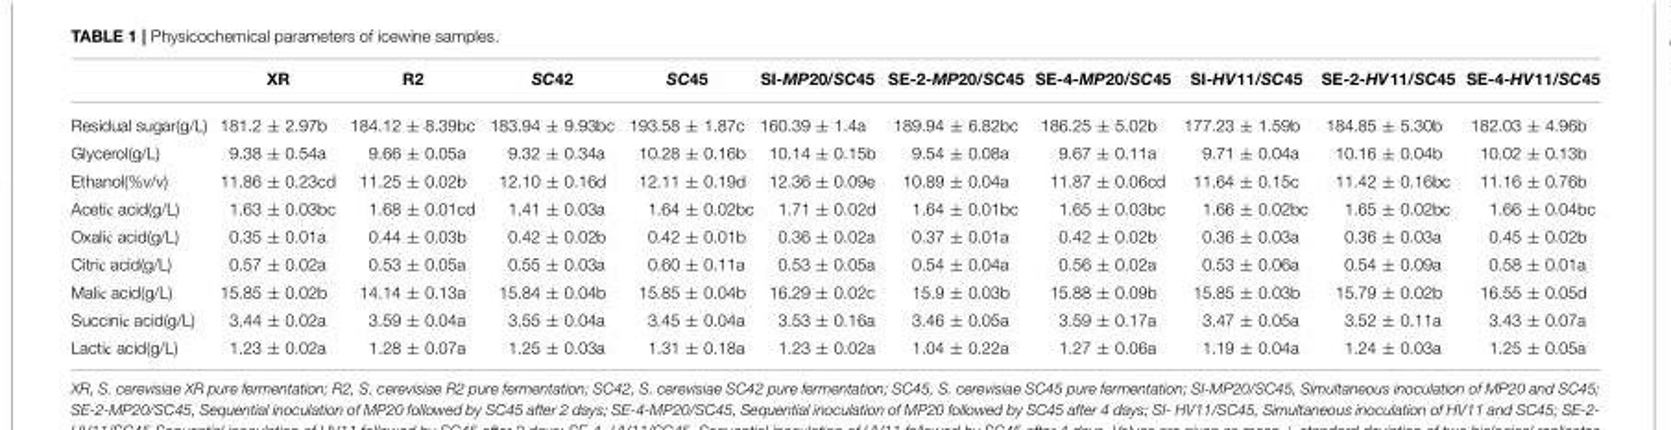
<table><thead><tr><td></td><td>XR</td><td>R2</td><td>SC42</td><td>SC45</td><td>SI-MP20/SC45</td><td>SE-2-MP20/SC45</td><td>SE-4-MP20/SC45</td><td>SI-HV11/SC45</td><td>SE-2-HV11/SC45</td><td>SE-4-HV11/SC45</td></tr></thead><tbody><tr><td>Residual sugar(g/L)</td><td>181.2 ± 2.97b</td><td>184.12 ± 8.39bc</td><td>183.94 ± 9.93bc</td><td>193.58 ± 1.87c</td><td>160.39 ± 1.4a</td><td>189.94 ± 6.82bc</td><td>186.25 ± 5.02b</td><td>177.23 ± 1.59b</td><td>184.85 ± 5.30b</td><td>182.03 ± 4.96b</td></tr><tr><td>Glycerol(g/L)</td><td>9.38 ± 0.54a</td><td>9.66 ± 0.05a</td><td>9.32 ± 0.34a</td><td>10.28 ± 0.16b</td><td>10.14 ± 0.15b</td><td>9.54 ± 0.08a</td><td>9.67 ± 0.11a</td><td>9.71 ± 0.04a</td><td>10.16 ± 0.04b</td><td>10.02 ± 0.13b</td></tr><tr><td>Ethanol(%v/v)</td><td>11.86 ± 0.23cd</td><td>11.25 ± 0.02b</td><td>12.10 ± 0.16d</td><td>12.11 ± 0.19d</td><td>12.36 ± 0.09e</td><td>10.89 ± 0.04a</td><td>11.87 ± 0.06cd</td><td>11.64 ± 0.15c</td><td>11.42 ± 0.16bc</td><td>11.16 ± 0.76b</td></tr><tr><td>Acetic acid(g/L)</td><td>1.63 ± 0.03bc</td><td>1.68 ± 0.01cd</td><td>1.41 ± 0.03a</td><td>1.64 ± 0.02bc</td><td>1.71 ± 0.02d</td><td>1.64 ± 0.01bc</td><td>1.65 ± 0.03bc</td><td>1.66 ± 0.02bc</td><td>1.65 ± 0.02bc</td><td>1.66 ± 0.04bc</td></tr><tr><td>Oxalic acid(g/L)</td><td>0.35 ± 0.01a</td><td>0.44 ± 0.03b</td><td>0.42 ± 0.02b</td><td>0.42 ± 0.01b</td><td>0.36 ± 0.02a</td><td>0.37 ± 0.01a</td><td>0.42 ± 0.02b</td><td>0.36 ± 0.03a</td><td>0.36 ± 0.03a</td><td>0.45 ± 0.02b</td></tr><tr><td>Citric acid(g/L)</td><td>0.57 ± 0.02a</td><td>0.53 ± 0.05a</td><td>0.55 ± 0.03a</td><td>0.60 ± 0.11a</td><td>0.53 ± 0.05a</td><td>0.54 ± 0.04a</td><td>0.56 ± 0.02a</td><td>0.53 ± 0.06a</td><td>0.54 ± 0.09a</td><td>0.58 ± 0.01a</td></tr><tr><td>Malic acid(g/L)</td><td>15.85 ± 0.02b</td><td>14.14 ± 0.13a</td><td>15.84 ± 0.04b</td><td>15.85 ± 0.04b</td><td>16.29 ± 0.02c</td><td>15.9 ± 0.03b</td><td>15.88 ± 0.09b</td><td>15.85 ± 0.03b</td><td>15.79 ± 0.02b</td><td>16.55 ± 0.05d</td></tr><tr><td>Succinic acid(g/L)</td><td>3.44 ± 0.02a</td><td>3.59 ± 0.04a</td><td>3.55 ± 0.04a</td><td>3.45 ± 0.04a</td><td>3.53 ± 0.16a</td><td>3.46 ± 0.05a</td><td>3.59 ± 0.17a</td><td>3.47 ± 0.05a</td><td>3.52 ± 0.11a</td><td>3.43 ± 0.07a</td></tr><tr><td>Lactic acid(g/L)</td><td>1.23 ± 0.02a</td><td>1.28 ± 0.07a</td><td>1.25 ± 0.03a</td><td>1.31 ± 0.18a</td><td>1.23 ± 0.02a</td><td>1.04 ± 0.22a</td><td>1.27 ± 0.06a</td><td>1.19 ± 0.04a</td><td>1.24 ± 0.03a</td><td>1.25 ± 0.05a</td></tr></tbody></table>